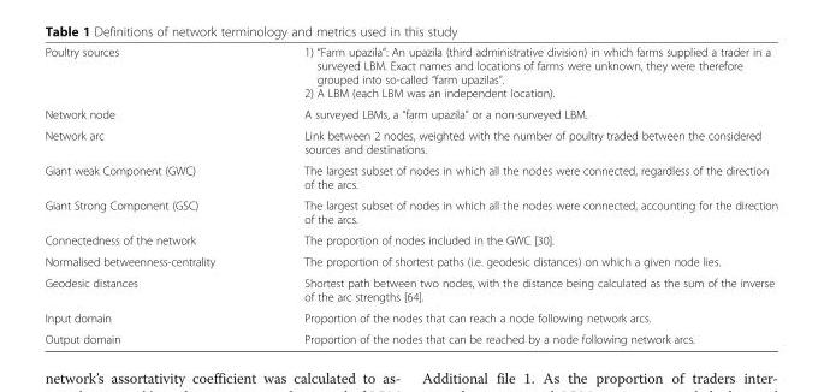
<table><tbody><tr><td>Poultry sources</td><td>1) “Farm upazila”: An upazila (third administrative division) in which farms supplied a trader in a surveyed LBM. Exact names and locations of farms were unknown, they were therefore grouped into so-called “farm upazilas”. 2) A LBM (each LBM was an independent location).</td></tr><tr><td>Network node</td><td>A surveyed LBMs, a “farm upazila” or a non-surveyed LBM.</td></tr><tr><td>Network arc</td><td>Link between 2 nodes, weighted with the number of poultry traded between the considered sources and destinations.</td></tr><tr><td>Giant weak Component (GWC)</td><td>The largest subset of nodes in which all the nodes were connected, regardless of the direction of the arcs.</td></tr><tr><td>Giant Strong Component (GSC)</td><td>The largest subset of nodes in which all the nodes were connected, accounting for the direction of the arcs.</td></tr><tr><td>Connectedness of the network</td><td>The proportion of nodes included in the GWC [30].</td></tr><tr><td>Normalised betweenness-centrality</td><td>The proportion of shortest paths (i.e. geodesic distances) on which a given node lies.</td></tr><tr><td>Geodesic distances</td><td>Shortest path between two nodes, with the distance being calculated as the sum of the inverse of the arc strengths [64].</td></tr><tr><td>Input domain</td><td>Proportion of the nodes that can reach a node following network arcs.</td></tr><tr><td>Output domain</td><td>Proportion of the nodes that can be reached by a node following network arcs.</td></tr></tbody></table>